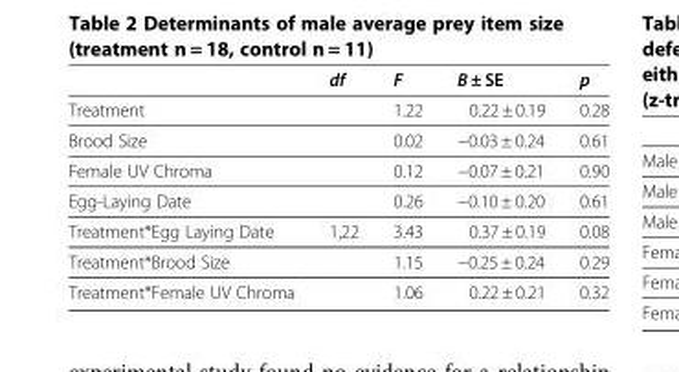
<table><thead><tr><td></td><td>df</td><td>F</td><td>B ± SE</td><td>p</td></tr></thead><tbody><tr><td>Treatment</td><td></td><td>1.22</td><td>0.22 ± 0.19</td><td>0.28</td></tr><tr><td>Brood Size</td><td></td><td>0.02</td><td>−0.03 ± 0.24</td><td>0.61</td></tr><tr><td>Female UV Chroma</td><td></td><td>0.12</td><td>−0.07 ± 0.21</td><td>0.90</td></tr><tr><td>Egg-Laying Date</td><td></td><td>0.26</td><td>−0.10 ± 0.20</td><td>0.61</td></tr><tr><td>Treatment*Egg Laying Date</td><td>1,22</td><td>3.43</td><td>0.37 ± 0.19</td><td>0.08</td></tr><tr><td>Treatment*Brood Size</td><td></td><td>1.15</td><td>−0.25 ± 0.24</td><td>0.29</td></tr><tr><td>Treatment*Female UV Chroma</td><td></td><td>1.06</td><td>0.22 ± 0.21</td><td>0.32</td></tr></tbody></table>